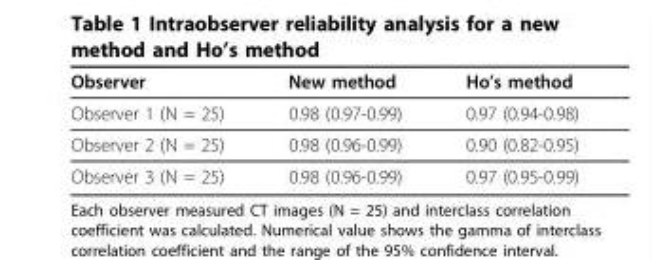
<table><thead><tr><td>Observer</td><td>New method</td><td>Ho’s method</td></tr></thead><tbody><tr><td>Observer 1 (N = 25)</td><td>0.98 (0.97-0.99)</td><td>0.97 (0.94-0.98)</td></tr><tr><td>Observer 2 (N = 25)</td><td>0.98 (0.96-0.99)</td><td>0.90 (0.82-0.95)</td></tr><tr><td>Observer 3 (N = 25)</td><td>0.98 (0.96-0.99)</td><td>0.97 (0.95-0.99)</td></tr></tbody></table>